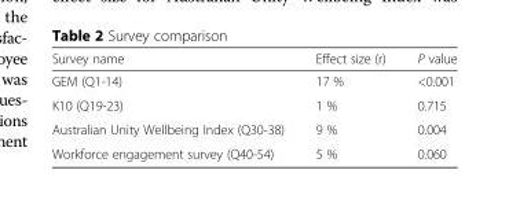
<table><thead><tr><td>Survey name</td><td>Effect size (r)</td><td>P value</td></tr></thead><tbody><tr><td>GEM (Q1-14)</td><td>17 %</td><td>&lt;0.001</td></tr><tr><td>K10 (Q19-23)</td><td>1 %</td><td>0.715</td></tr><tr><td>Australian Unity Wellbeing Index (Q30-38)</td><td>9 %</td><td>0.004</td></tr><tr><td>Workforce engagement survey (Q40-54)</td><td>5 %</td><td>0.060</td></tr></tbody></table>